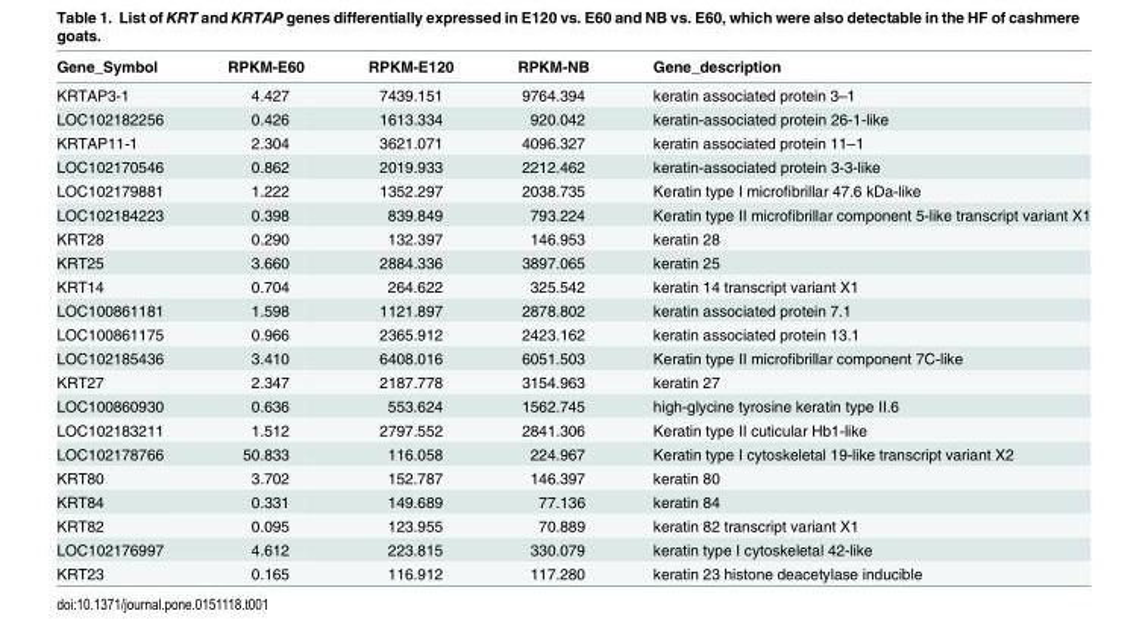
<table><thead><tr><td>Gene_Symbol</td><td>RPKM-E60</td><td>RPKM-E120</td><td>RPKM-NB</td><td>Gene_description</td></tr></thead><tbody><tr><td>KRTAP3-1</td><td>4.427</td><td>7439.151</td><td>9764.394</td><td>keratin associated protein 3–1</td></tr><tr><td>LOC102182256</td><td>0.426</td><td>1613.334</td><td>920.042</td><td>keratin-associated protein 26-1-like</td></tr><tr><td>KRTAP11-1</td><td>2.304</td><td>3621.071</td><td>4096.327</td><td>keratin associated protein 11–1</td></tr><tr><td>LOC102170546</td><td>0.862</td><td>2019.933</td><td>2212.462</td><td>keratin-associated protein 3-3-like</td></tr><tr><td>LOC102179881</td><td>1.222</td><td>1352.297</td><td>2038.735</td><td>Keratin type I microfibrillar 47.6 kDa-like</td></tr><tr><td>LOC102184223</td><td>0.398</td><td>839.849</td><td>793.224</td><td>Keratin type II microfibrillar component 5-like transcript variant X1</td></tr><tr><td>KRT28</td><td>0.290</td><td>132.397</td><td>146.953</td><td>keratin 28</td></tr><tr><td>KRT25</td><td>3.660</td><td>2884.336</td><td>3897.065</td><td>keratin 25</td></tr><tr><td>KRT14</td><td>0.704</td><td>264.622</td><td>325.542</td><td>keratin 14 transcript variant X1</td></tr><tr><td>LOC100861181</td><td>1.598</td><td>1121.897</td><td>2878.802</td><td>keratin associated protein 7.1</td></tr><tr><td>LOC100861175</td><td>0.966</td><td>2365.912</td><td>2423.162</td><td>keratin associated protein 13.1</td></tr><tr><td>LOC102185436</td><td>3.410</td><td>6408.016</td><td>6051.503</td><td>Keratin type II microfibrillar component 7C-like</td></tr><tr><td>KRT27</td><td>2.347</td><td>2187.778</td><td>3154.963</td><td>keratin 27</td></tr><tr><td>LOC100860930</td><td>0.636</td><td>553.624</td><td>1562.745</td><td>high-glycine tyrosine keratin type II.6</td></tr><tr><td>LOC102183211</td><td>1.512</td><td>2797.552</td><td>2841.306</td><td>Keratin type II cuticular Hb1-like</td></tr><tr><td>LOC102178766</td><td>50.833</td><td>116.058</td><td>224.967</td><td>Keratin type I cytoskeletal 19-like transcript variant X2</td></tr><tr><td>KRT80</td><td>3.702</td><td>152.787</td><td>146.397</td><td>keratin 80</td></tr><tr><td>KRT84</td><td>0.331</td><td>149.689</td><td>77.136</td><td>keratin 84</td></tr><tr><td>KRT82</td><td>0.095</td><td>123.955</td><td>70.889</td><td>keratin 82 transcript variant X1</td></tr><tr><td>LOC102176997</td><td>4.612</td><td>223.815</td><td>330.079</td><td>keratin type I cytoskeletal 42-like</td></tr><tr><td>KRT23</td><td>0.165</td><td>116.912</td><td>117.280</td><td>keratin 23 histone deacetylase inducible</td></tr></tbody></table>